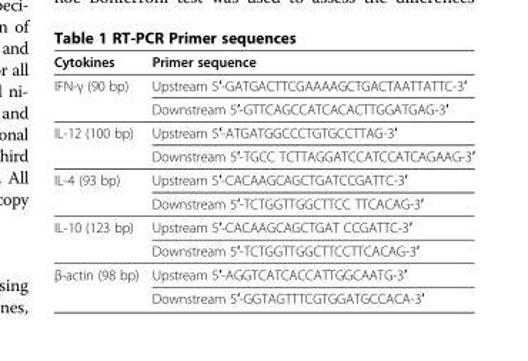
<table><thead><tr><td>Cytokines</td><td>Primer sequence</td></tr></thead><tbody><tr><td rowspan="2">IFN-γ (90 bp)</td><td>Upstream 5′-GATGACTTCGAAAAGCTGACTAATTATTC-3′</td></tr><tr><td>Downstream 5′-GTTCAGCCATCACACTTGGATGAG-3′</td></tr><tr><td rowspan="2">IL-12 (100 bp)</td><td>Upstream 5′-ATGATGGCCCTGTGCCTTAG-3′</td></tr><tr><td>Downstream 5′-TGCC TCTTAGGATCCATCCATCAGAAG-3′</td></tr><tr><td rowspan="2">IL-4 (93 bp)</td><td>Upstream 5′-CACAAGCAGCTGATCCGATTC-3′</td></tr><tr><td>Downstream 5′-TCTGGTTGGCTTCC TTCACAG-3′</td></tr><tr><td rowspan="2">IL-10 (123 bp)</td><td>Upstream 5′-CACAAGCAGCTGAT CCGATTC-3′</td></tr><tr><td>Downstream 5′-TCTGGTTGGCTTCCTTCACAG-3′</td></tr><tr><td rowspan="2">β-actin (98 bp)</td><td>Upstream 5′-AGGTCATCACCATTGGCAATG-3′</td></tr><tr><td>Downstream 5′-GGTAGTTTCGTGGATGCCACA-3′</td></tr></tbody></table>